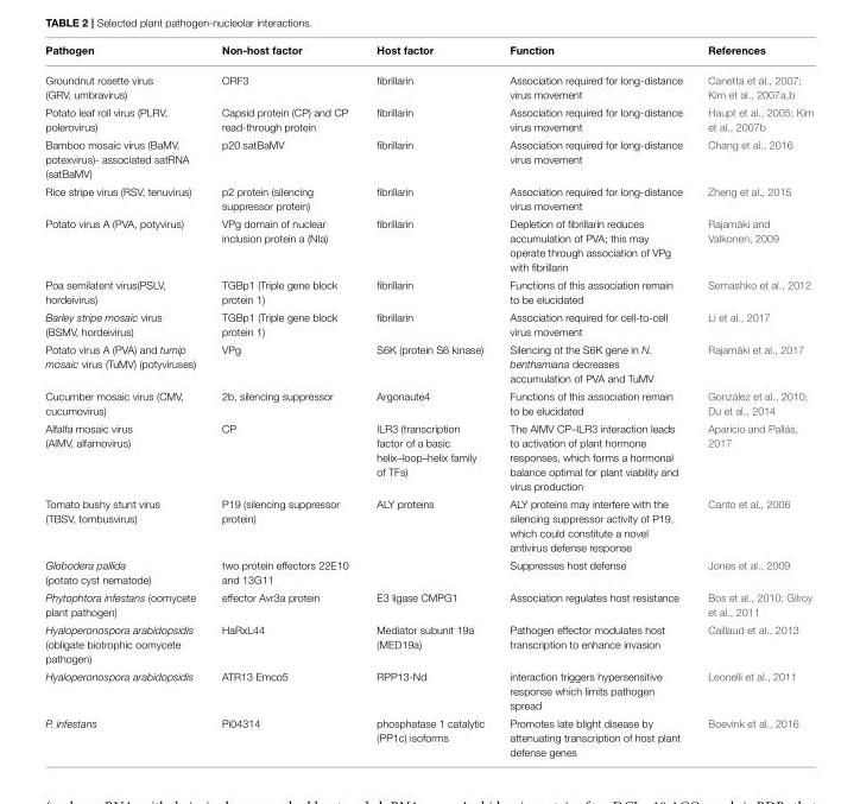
<table><thead><tr><td>Pathogen</td><td>Non-host factor</td><td>Host factor</td><td>Function</td><td>References</td></tr></thead><tbody><tr><td>Groundnut rosette virus (GRV, umbravirus)</td><td>ORF3</td><td>fibrillarin</td><td>Association required for long-distance virus movement</td><td>Canetta et al., 2007; Kim et al., 2007a,b</td></tr><tr><td>Potato leaf roll virus (PLRV, polerovirus)</td><td>Capsid protein (CP) and CP read-through protein</td><td>fibrillarin</td><td>Association required for long-distance virus movement</td><td>Haupt et al., 2005; Kim et al., 2007b</td></tr><tr><td>Bamboo mosaic virus (BaMV, potexvirus)- associated satRNA (satBaMV)</td><td>p20 satBaMV</td><td>fibrillarin</td><td>Association required for long-distance virus movement</td><td>Chang et al., 2016</td></tr><tr><td>Rice stripe virus (RSV, tenuvirus)</td><td>p2 protein (silencing suppressor protein)</td><td>fibrillarin</td><td>Association required for long-distance virus movement</td><td>Zheng et al., 2015</td></tr><tr><td>Potato virus A (PVA, potyvirus)</td><td>VPg domain of nuclear inclusion protein a (NIa)</td><td>fibrillarin</td><td>Depletion of fibrillarin reduces accumulation of PVA; this may operate through association of VPg with fibrillarin</td><td>Rajamäki and Valkonen, 2009</td></tr><tr><td>Poa semilatent virus(PSLV, hordeivirus)</td><td>TGBp1 (Triple gene block protein 1)</td><td>fibrillarin</td><td>Functions of this association remain to be elucidated</td><td>Semashko et al., 2012</td></tr><tr><td>Barley stripe mosaic virus (BSMV, hordeivirus)</td><td>TGBp1 (Triple gene block protein 1)</td><td>fibrillarin</td><td>Association required for cell-to-cell virus movement</td><td>Li et al., 2017</td></tr><tr><td>Potato virus A (PVA) and turnip mosaic virus (TuMV) (potyviruses)</td><td>VPg</td><td>S6K (protein S6 kinase)</td><td>Silencing of the S6K gene in N. benthamiana decreases accumulation of PVA and TuMV</td><td>Rajamäki et al., 2017</td></tr><tr><td>Cucumber mosaic virus (CMV, cucumovirus)</td><td>2b, silencing suppressor</td><td>Argonaute4</td><td>Functions of this association remain to be elucidated</td><td>González et al., 2010; Du et al., 2014</td></tr><tr><td>Alfalfa mosaic virus (AlMV, alfamovirus)</td><td>CP</td><td>ILR3 (transcription factor of a basic helix–loop–helix family of TFs)</td><td>The AlMV CP–ILR3 interaction leads to activation of plant hormone responses, which forms a hormonal balance optimal for plant viability and virus production</td><td>Aparicio and Pallás, 2017</td></tr><tr><td>Tomato bushy stunt virus (TBSV, tombusvirus)</td><td>P19 (silencing suppressor protein)</td><td>ALY proteins</td><td>ALY proteins may interfere with the silencing suppressor activity of P19, which could constitute a novel antivirus defense response</td><td>Canto et al., 2006</td></tr><tr><td>Globodera pallida (potato cyst nematode)</td><td>two protein effectors 22E10 and 13G11</td><td></td><td>Suppresses host defense</td><td>Jones et al., 2009</td></tr><tr><td>Phytophtora infestans (oomycete plant pathogen)</td><td>effector Avr3a protein</td><td>E3 ligase CMPG1</td><td>Association regulates host resistance</td><td>Bos et al., 2010; Gilroy et al., 2011</td></tr><tr><td>Hyaloperonospora arabidopsidis (obligate biotrophic oomycete pathogen)</td><td>HaRxL44</td><td>Mediator subunit 19a (MED19a)</td><td>Pathogen effector modulates host transcription to enhance invasion</td><td>Caillaud et al., 2013</td></tr><tr><td>Hyaloperonospora arabidopsidis</td><td>ATR13 Emco5</td><td>RPP13-Nd</td><td>interaction triggers hypersensitive response which limits pathogen spread</td><td>Leonelli et al., 2011</td></tr><tr><td>P. infestans</td><td>Pi04314</td><td>phosphatase 1 catalytic (PP1c) isoforms</td><td>Promotes late blight disease by attenuating transcription of host plant defense genes</td><td>Boevink et al., 2016</td></tr></tbody></table>